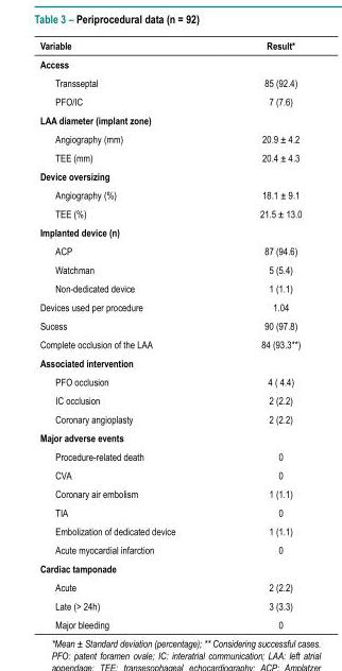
<table><thead><tr><td>Variable</td><td>Result*</td></tr></thead><tbody><tr><td colspan="2">Access</td></tr><tr><td>Transseptal</td><td>85 (92.4)</td></tr><tr><td>PFO/IC</td><td>7 (7.6)</td></tr><tr><td colspan="2">LAA diameter (implant zone)</td></tr><tr><td>Angiography (mm)</td><td>20.9 ± 4.2</td></tr><tr><td>TEE (mm)</td><td>20.4 ± 4.3</td></tr><tr><td colspan="2">Device oversizing</td></tr><tr><td>Angiography (%)</td><td>18.1 ± 9.1</td></tr><tr><td>TEE (%)</td><td>21.5 ± 13.0</td></tr><tr><td colspan="2">Implanted device (n)</td></tr><tr><td>ACP</td><td>87 (94.6)</td></tr><tr><td>Watchman</td><td>5 (5.4)</td></tr><tr><td>Non-dedicated device</td><td>1 (1.1)</td></tr><tr><td>Devices used per procedure</td><td>1.04</td></tr><tr><td>Sucess</td><td>90 (97.8)</td></tr><tr><td>Complete occlusion of the LAA</td><td>84 (93.3**)</td></tr><tr><td colspan="2">Associated intervention</td></tr><tr><td>PFO occlusion</td><td>4 ( 4.4)</td></tr><tr><td>IC occlusion</td><td>2 (2.2)</td></tr><tr><td>Coronary angioplasty</td><td>2 (2.2)</td></tr><tr><td colspan="2">Major adverse events</td></tr><tr><td>Procedure-related death</td><td>0</td></tr><tr><td>CVA</td><td>0</td></tr><tr><td>Coronary air embolism</td><td>1 (1.1)</td></tr><tr><td>TIA</td><td>0</td></tr><tr><td>Embolization of dedicated device</td><td>1 (1.1)</td></tr><tr><td>Acute myocardial infarction</td><td>0</td></tr><tr><td colspan="2">Cardiac tamponade</td></tr><tr><td>Acute</td><td>2 (2.2)</td></tr><tr><td>Late (&gt; 24h)</td><td>3 (3.3)</td></tr><tr><td>Major bleeding</td><td>0</td></tr></tbody></table>